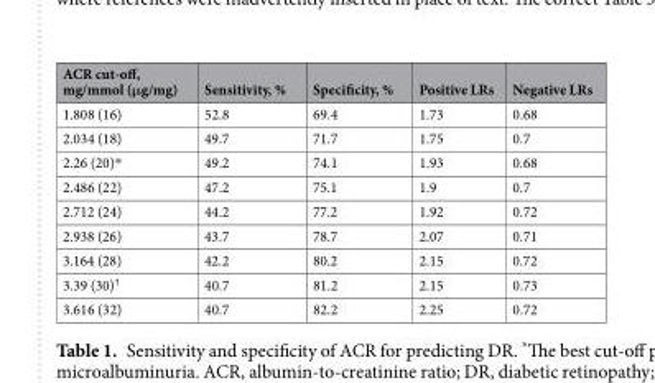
<table><thead><tr><td>ACR cut-off, mg/mmol (μg/mg)</td><td>Sensitivity, %</td><td>Specificity, %</td><td>Positive LRs</td><td>Negative LRs</td></tr></thead><tbody><tr><td>1.808 (16)</td><td>52.8</td><td>69.4</td><td>1.73</td><td>0.68</td></tr><tr><td>2.034 (18)</td><td>49.7</td><td>71.7</td><td>1.75</td><td>0.7</td></tr><tr><td>2.26 (20)*</td><td>49.2</td><td>74.1</td><td>1.93</td><td>0.68</td></tr><tr><td>2.486 (22)</td><td>47.2</td><td>75.1</td><td>1.9</td><td>0.7</td></tr><tr><td>2.712 (24)</td><td>44.2</td><td>77.2</td><td>1.92</td><td>0.72</td></tr><tr><td>2.938 (26)</td><td>43.7</td><td>78.7</td><td>2.07</td><td>0.71</td></tr><tr><td>3.164 (28)</td><td>42.2</td><td>80.2</td><td>2.15</td><td>0.72</td></tr><tr><td>3.39 (30)<sup>†</sup></td><td>40.7</td><td>81.2</td><td>2.15</td><td>0.73</td></tr><tr><td>3.616 (32)</td><td>40.7</td><td>82.2</td><td>2.25</td><td>0.72</td></tr></tbody></table>